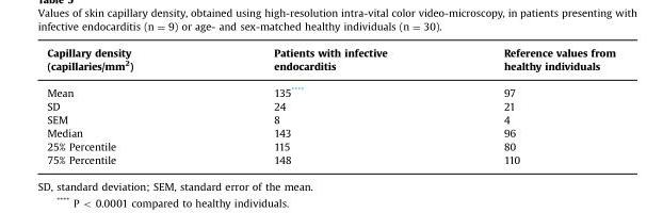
<table><thead><tr><td>Capillary density (capillaries/mm<sup>2</sup>)</td><td>Patients with infective endocarditis</td><td>Reference values from healthy individuals</td></tr></thead><tbody><tr><td>Mean</td><td>135****</td><td>97</td></tr><tr><td>SD</td><td>24</td><td>21</td></tr><tr><td>SEM</td><td>8</td><td>4</td></tr><tr><td>Median</td><td>143</td><td>96</td></tr><tr><td>25% Percentile</td><td>115</td><td>80</td></tr><tr><td>75% Percentile</td><td>148</td><td>110</td></tr></tbody></table>